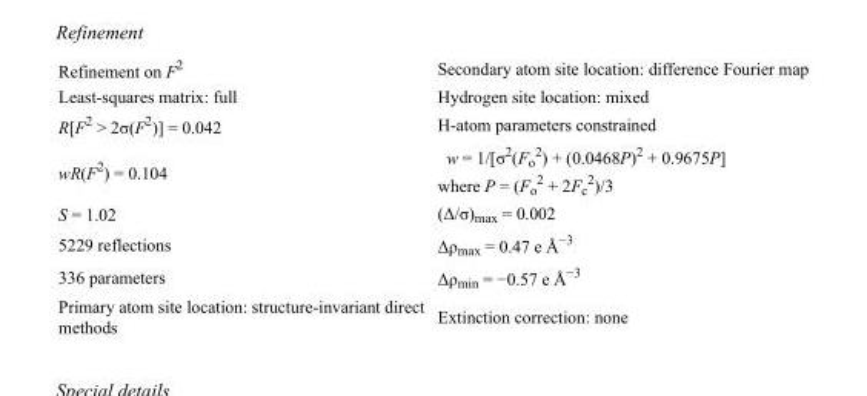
<table><tbody><tr><td>Refinement on F<sup>2</sup></td><td>Secondary atom site location: difference Fourier map</td></tr><tr><td>Least-squares matrix: full</td><td>Hydrogen site location: mixed</td></tr><tr><td>R[F<sup>2</sup> &gt; 2σ(F<sup>2</sup>)] = 0.042</td><td>H-atom parameters constrained</td></tr><tr><td>wR(F<sup>2</sup>) = 0.104</td><td>w = 1/[σ<sup>2</sup>(F<sub>o</sub> <sup>2</sup>) + (0.0468P)<sup>2</sup> + 0.9675P] where P = (F<sub>o</sub> <sup>2</sup> + 2F<sub>c</sub> <sup>2</sup>)/3</td></tr><tr><td>S = 1.02</td><td>(Δ/σ)<sub>max</sub> = 0.002</td></tr><tr><td>5229 reflections</td><td>Δρ<sub>max</sub> = 0.47 e Å<sup>−3</sup></td></tr><tr><td>336 parameters</td><td>Δρ<sub>min</sub> = −0.57 e Å<sup>−3</sup></td></tr><tr><td>Primary atom site location: structure-invariant direct methods</td><td>Extinction correction: none</td></tr></tbody></table>